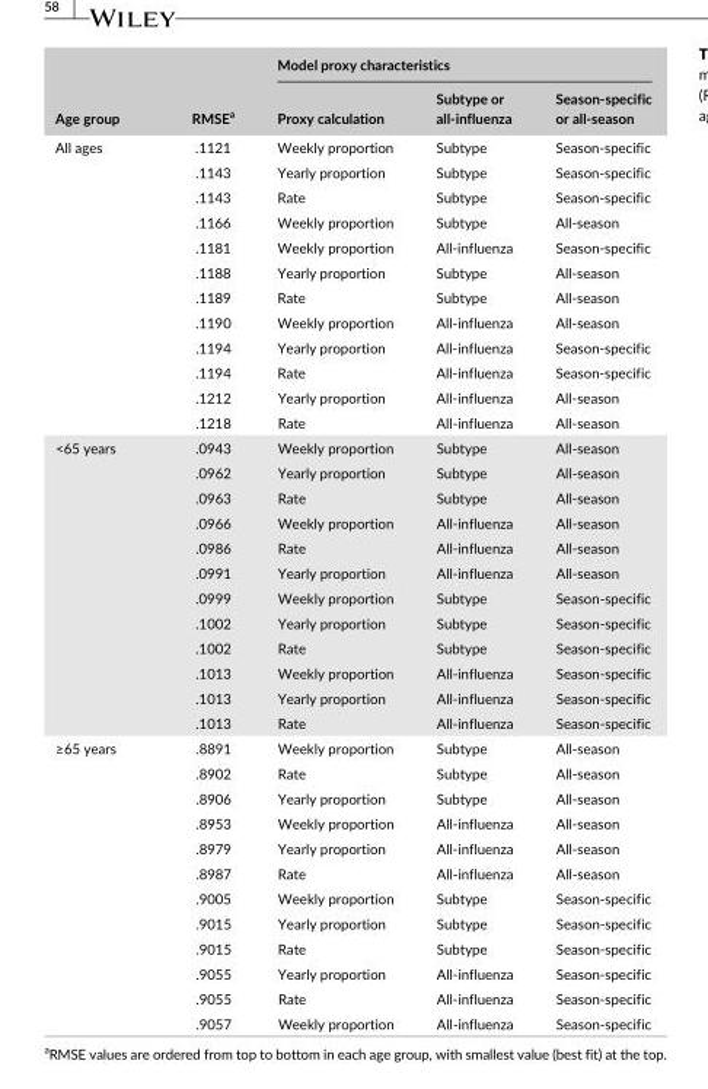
<table><thead><tr><td rowspan="2">Age group</td><td rowspan="2">RMSE<sup>a</sup></td><td colspan="3">Model proxy characteristics</td></tr><tr><td>Proxy calculation</td><td>Subtype or all- influenza</td><td>Season- specific or all- season</td></tr></thead><tbody><tr><td rowspan="12">All ages</td><td>.1121</td><td>Weekly proportion</td><td>Subtype</td><td>Season- specific</td></tr><tr><td>.1143</td><td>Yearly proportion</td><td>Subtype</td><td>Season- specific</td></tr><tr><td>.1143</td><td>Rate</td><td>Subtype</td><td>Season- specific</td></tr><tr><td>.1166</td><td>Weekly proportion</td><td>Subtype</td><td>All- season</td></tr><tr><td>.1181</td><td>Weekly proportion</td><td>All- influenza</td><td>Season- specific</td></tr><tr><td>.1188</td><td>Yearly proportion</td><td>Subtype</td><td>All- season</td></tr><tr><td>.1189</td><td>Rate</td><td>Subtype</td><td>All- season</td></tr><tr><td>.1190</td><td>Weekly proportion</td><td>All- influenza</td><td>All- season</td></tr><tr><td>.1194</td><td>Yearly proportion</td><td>All- influenza</td><td>Season- specific</td></tr><tr><td>.1194</td><td>Rate</td><td>All- influenza</td><td>Season- specific</td></tr><tr><td>.1212</td><td>Yearly proportion</td><td>All- influenza</td><td>All- season</td></tr><tr><td>.1218</td><td>Rate</td><td>All- influenza</td><td>All- season</td></tr><tr><td rowspan="12">&lt;65 years</td><td>.0943</td><td>Weekly proportion</td><td>Subtype</td><td>All- season</td></tr><tr><td>.0962</td><td>Yearly proportion</td><td>Subtype</td><td>All- season</td></tr><tr><td>.0963</td><td>Rate</td><td>Subtype</td><td>All- season</td></tr><tr><td>.0966</td><td>Weekly proportion</td><td>All- influenza</td><td>All- season</td></tr><tr><td>.0986</td><td>Rate</td><td>All- influenza</td><td>All- season</td></tr><tr><td>.0991</td><td>Yearly proportion</td><td>All- influenza</td><td>All- season</td></tr><tr><td>.0999</td><td>Weekly proportion</td><td>Subtype</td><td>Season- specific</td></tr><tr><td>.1002</td><td>Yearly proportion</td><td>Subtype</td><td>Season- specific</td></tr><tr><td>.1002</td><td>Rate</td><td>Subtype</td><td>Season- specific</td></tr><tr><td>.1013</td><td>Weekly proportion</td><td>All- influenza</td><td>Season- specific</td></tr><tr><td>.1013</td><td>Yearly proportion</td><td>All- influenza</td><td>Season- specific</td></tr><tr><td>.1013</td><td>Rate</td><td>All- influenza</td><td>Season- specific</td></tr><tr><td rowspan="12">≥65 years</td><td>.8891</td><td>Weekly proportion</td><td>Subtype</td><td>All- season</td></tr><tr><td>.8902</td><td>Rate</td><td>Subtype</td><td>All- season</td></tr><tr><td>.8906</td><td>Yearly proportion</td><td>Subtype</td><td>All- season</td></tr><tr><td>.8953</td><td>Weekly proportion</td><td>All- influenza</td><td>All- season</td></tr><tr><td>.8979</td><td>Yearly proportion</td><td>All- influenza</td><td>All- season</td></tr><tr><td>.8987</td><td>Rate</td><td>All- influenza</td><td>All- season</td></tr><tr><td>.9005</td><td>Weekly proportion</td><td>Subtype</td><td>Season- specific</td></tr><tr><td>.9015</td><td>Yearly proportion</td><td>Subtype</td><td>Season- specific</td></tr><tr><td>.9015</td><td>Rate</td><td>Subtype</td><td>Season- specific</td></tr><tr><td>.9055</td><td>Yearly proportion</td><td>All- influenza</td><td>Season- specific</td></tr><tr><td>.9055</td><td>Rate</td><td>All- influenza</td><td>Season- specific</td></tr><tr><td>.9057</td><td>Weekly proportion</td><td>All- influenza</td><td>Season- specific</td></tr></tbody></table>